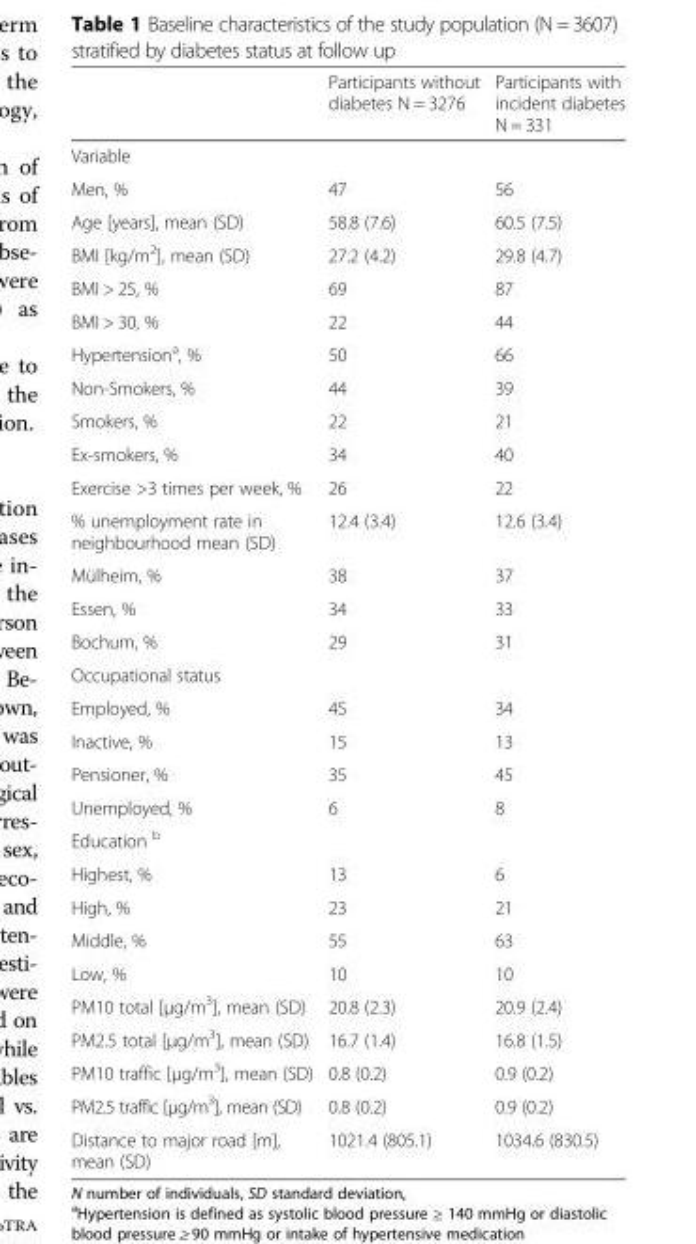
<table><thead><tr><td></td><td>Participants without diabetes N = 3276</td><td>Participants with incident diabetes N = 331</td></tr></thead><tbody><tr><td colspan="3">Variable</td></tr><tr><td>Men, %</td><td>47</td><td>56</td></tr><tr><td>Age [years], mean (SD)</td><td>58.8 (7.6)</td><td>60.5 (7.5)</td></tr><tr><td>BMI [kg/m<sup>2</sup>], mean (SD)</td><td>27.2 (4.2)</td><td>29.8 (4.7)</td></tr><tr><td>BMI &gt; 25, %</td><td>69</td><td>87</td></tr><tr><td>BMI &gt; 30, %</td><td>22</td><td>44</td></tr><tr><td>Hypertension<sup>a</sup>, %</td><td>50</td><td>66</td></tr><tr><td>Non-Smokers, %</td><td>44</td><td>39</td></tr><tr><td>Smokers, %</td><td>22</td><td>21</td></tr><tr><td>Ex-smokers, %</td><td>34</td><td>40</td></tr><tr><td>Exercise &gt;3 times per week, %</td><td>26</td><td>22</td></tr><tr><td>% unemployment rate in neighbourhood mean (SD)</td><td>12.4 (3.4)</td><td>12.6 (3.4)</td></tr><tr><td>Mülheim, %</td><td>38</td><td>37</td></tr><tr><td>Essen, %</td><td>34</td><td>33</td></tr><tr><td>Bochum, %</td><td>29</td><td>31</td></tr><tr><td colspan="3">Occupational status</td></tr><tr><td>Employed, %</td><td>45</td><td>34</td></tr><tr><td>Inactive, %</td><td>15</td><td>13</td></tr><tr><td>Pensioner, %</td><td>35</td><td>45</td></tr><tr><td>Unemployed, %</td><td>6</td><td>8</td></tr><tr><td colspan="3">Education <sup>b</sup></td></tr><tr><td>Highest, %</td><td>13</td><td>6</td></tr><tr><td>High, %</td><td>23</td><td>21</td></tr><tr><td>Middle, %</td><td>55</td><td>63</td></tr><tr><td>Low, %</td><td>10</td><td>10</td></tr><tr><td>PM10 total [μg/m<sup>3</sup>], mean (SD)</td><td>20.8 (2.3)</td><td>20.9 (2.4)</td></tr><tr><td>PM2.5 total [μg/m<sup>3</sup>], mean (SD)</td><td>16.7 (1.4)</td><td>16.8 (1.5)</td></tr><tr><td>PM10 traffic [μg/m<sup>3</sup>], mean (SD)</td><td>0.8 (0.2)</td><td>0.9 (0.2)</td></tr><tr><td>PM2.5 traffic [μg/m<sup>3</sup>], mean (SD)</td><td>0.8 (0.2)</td><td>0.9 (0.2)</td></tr><tr><td>Distance to major road [m], mean (SD)</td><td>1021.4 (805.1)</td><td>1034.6 (830.5)</td></tr></tbody></table>